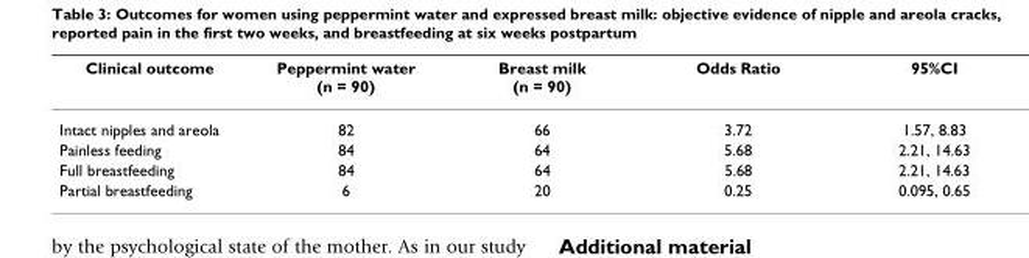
<table><thead><tr><td>Clinical outcome</td><td>Peppermint water (n = 90)</td><td>Breast milk (n = 90)</td><td>Odds Ratio</td><td>95%CI</td></tr></thead><tbody><tr><td>Intact nipples and areola</td><td>82</td><td>66</td><td>3.72</td><td>1.57, 8.83</td></tr><tr><td>Painless feeding</td><td>84</td><td>64</td><td>5.68</td><td>2.21, 14.63</td></tr><tr><td>Full breastfeeding</td><td>84</td><td>64</td><td>5.68</td><td>2.21, 14.63</td></tr><tr><td>Partial breastfeeding</td><td>6</td><td>20</td><td>0.25</td><td>0.095, 0.65</td></tr></tbody></table>